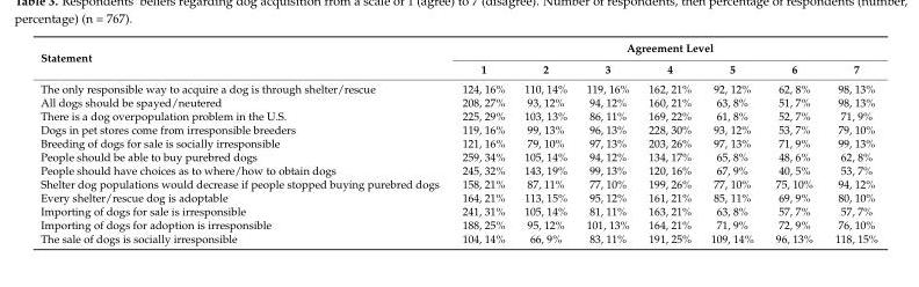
<table><thead><tr><td rowspan="2">Statement</td><td colspan="7">Agreement Level</td></tr><tr><td>1</td><td>2</td><td>3</td><td>4</td><td>5</td><td>6</td><td>7</td></tr></thead><tbody><tr><td>The only responsible way to acquire a dog is through shelter/rescue</td><td>124, 16%</td><td>110, 14%</td><td>119, 16%</td><td>162, 21%</td><td>92, 12%</td><td>62, 8%</td><td>98, 13%</td></tr><tr><td>All dogs should be spayed/neutered</td><td>208, 27%</td><td>93, 12%</td><td>94, 12%</td><td>160, 21%</td><td>63, 8%</td><td>51, 7%</td><td>98, 13%</td></tr><tr><td>There is a dog overpopulation problem in the U.S.</td><td>225, 29%</td><td>103, 13%</td><td>86, 11%</td><td>169, 22%</td><td>61, 8%</td><td>52, 7%</td><td>71, 9%</td></tr><tr><td>Dogs in pet stores come from irresponsible breeders</td><td>119, 16%</td><td>99, 13%</td><td>96, 13%</td><td>228, 30%</td><td>93, 12%</td><td>53, 7%</td><td>79, 10%</td></tr><tr><td>Breeding of dogs for sale is socially irresponsible</td><td>121, 16%</td><td>79, 10%</td><td>97, 13%</td><td>203, 26%</td><td>97, 13%</td><td>71, 9%</td><td>99, 13%</td></tr><tr><td>People should be able to buy purebred dogs</td><td>259, 34%</td><td>105, 14%</td><td>94, 12%</td><td>134, 17%</td><td>65, 8%</td><td>48, 6%</td><td>62, 8%</td></tr><tr><td>People should have choices as to where/how to obtain dogs</td><td>245, 32%</td><td>143, 19%</td><td>99, 13%</td><td>120, 16%</td><td>67, 9%</td><td>40, 5%</td><td>53, 7%</td></tr><tr><td>Shelter dog populations would decrease if people stopped buying purebred dogs</td><td>158, 21%</td><td>87, 11%</td><td>77, 10%</td><td>199, 26%</td><td>77, 10%</td><td>75, 10%</td><td>94, 12%</td></tr><tr><td>Every shelter/rescue dog is adoptable</td><td>164, 21%</td><td>113, 15%</td><td>95, 12%</td><td>161, 21%</td><td>85, 11%</td><td>69, 9%</td><td>80, 10%</td></tr><tr><td>Importing of dogs for sale is irresponsible</td><td>241, 31%</td><td>105, 14%</td><td>81, 11%</td><td>163, 21%</td><td>63, 8%</td><td>57, 7%</td><td>57, 7%</td></tr><tr><td>Importing of dogs for adoption is irresponsible</td><td>188, 25%</td><td>95, 12%</td><td>101, 13%</td><td>164, 21%</td><td>71, 9%</td><td>72, 9%</td><td>76, 10%</td></tr><tr><td>The sale of dogs is socially irresponsible</td><td>104, 14%</td><td>66, 9%</td><td>83, 11%</td><td>191, 25%</td><td>109, 14%</td><td>96, 13%</td><td>118, 15%</td></tr></tbody></table>